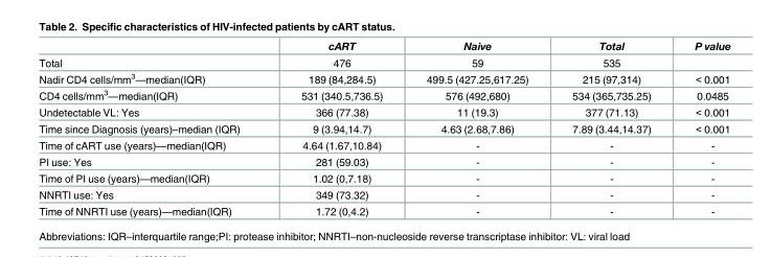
<table><thead><tr><td></td><td>cART</td><td>Naive</td><td>Total</td><td>P value</td></tr></thead><tbody><tr><td>Total</td><td>476</td><td>59</td><td>535</td><td></td></tr><tr><td>Nadir CD4 cells/mm<sup>3</sup>—median(IQR)</td><td>189 (84,284.5)</td><td>499.5 (427.25,617.25)</td><td>215 (97,314)</td><td>&lt; 0.001</td></tr><tr><td>CD4 cells/mm<sup>3</sup>—median(IQR)</td><td>531 (340.5,736.5)</td><td>576 (492,680)</td><td>534 (365,735.25)</td><td>0.0485</td></tr><tr><td>Undetectable VL: Yes</td><td>366 (77.38)</td><td>11 (19.3)</td><td>377 (71.13)</td><td>&lt; 0.001</td></tr><tr><td>Time since Diagnosis (years)–median (IQR)</td><td>9 (3.94,14.7)</td><td>4.63 (2.68,7.86)</td><td>7.89 (3.44,14.37)</td><td>&lt; 0.001</td></tr><tr><td>Time of cART use (years)—median(IQR)</td><td>4.64 (1.67,10.84)</td><td>-</td><td>-</td><td>-</td></tr><tr><td>PI use: Yes</td><td>281 (59.03)</td><td>-</td><td>-</td><td>-</td></tr><tr><td>Time of PI use (years)—median(IQR)</td><td>1.02 (0,7.18)</td><td>-</td><td>-</td><td>-</td></tr><tr><td>NNRTI use: Yes</td><td>349 (73.32)</td><td>-</td><td>-</td><td>-</td></tr><tr><td>Time of NNRTI use (years)—median(IQR)</td><td>1.72 (0,4.2)</td><td>-</td><td>-</td><td>-</td></tr></tbody></table>